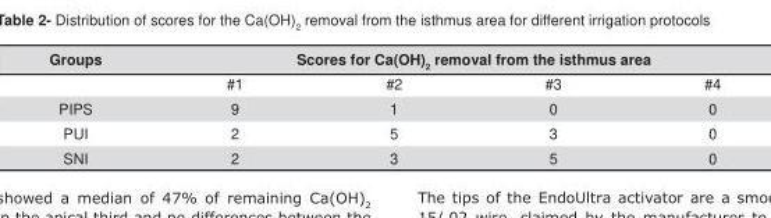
<table><thead><tr><td rowspan="2">Groups</td><td colspan="4">Scores for Ca(OH)<sub>2</sub> removal from the isthmus area</td></tr><tr><td>#1</td><td>#2</td><td>#3</td><td>#4</td></tr></thead><tbody><tr><td>PIPS</td><td>9</td><td>1</td><td>0</td><td>0</td></tr><tr><td>PUI</td><td>2</td><td>5</td><td>3</td><td>0</td></tr><tr><td>SNI</td><td>2</td><td>3</td><td>5</td><td>0</td></tr></tbody></table>